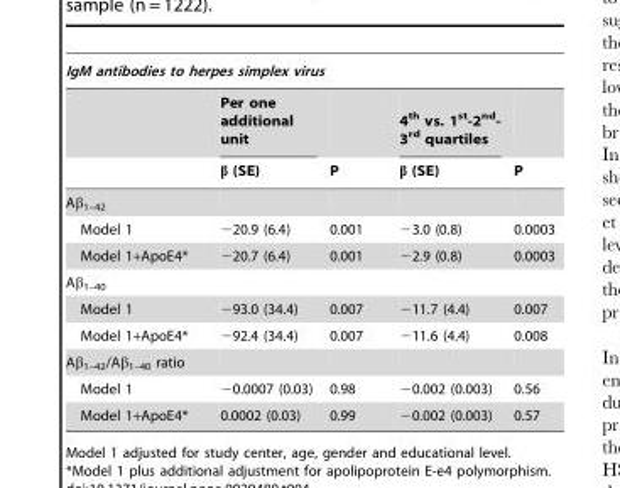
<table><thead><tr><td colspan="5">IgM antibodies to herpes simplex virus</td></tr><tr><td rowspan="2"></td><td rowspan="2">Per one additional unit β (SE)</td><td rowspan="2">P</td><td rowspan="2">4<sup>th</sup> vs. 1<sup>st</sup>-2<sup>nd</sup>- 3<sup>rd</sup> quartiles β (SE)</td><td rowspan="2">P</td></tr><tr></tr></thead><tbody><tr><td colspan="5">Aβ<sub>1–42</sub></td></tr><tr><td>Model 1</td><td>−20.9 (6.4)</td><td>0.001</td><td>−3.0 (0.8)</td><td>0.0003</td></tr><tr><td>Model 1+ApoE4*</td><td>−20.7 (6.4)</td><td>0.001</td><td>−2.9 (0.8)</td><td>0.0003</td></tr><tr><td colspan="5">Aβ<sub>1–40</sub></td></tr><tr><td>Model 1</td><td>−93.0 (34.4)</td><td>0.007</td><td>−11.7 (4.4)</td><td>0.007</td></tr><tr><td>Model 1+ApoE4*</td><td>−92.4 (34.4)</td><td>0.007</td><td>−11.6 (4.4)</td><td>0.008</td></tr><tr><td colspan="5">Aβ<sub>1–42</sub>/Aβ<sub>1–40</sub> ratio</td></tr><tr><td>Model 1</td><td>−0.0007 (0.03)</td><td>0.98</td><td>−0.002 (0.003)</td><td>0.56</td></tr><tr><td>Model 1+ApoE4*</td><td>0.0002 (0.03)</td><td>0.99</td><td>−0.002 (0.003)</td><td>0.57</td></tr></tbody></table>